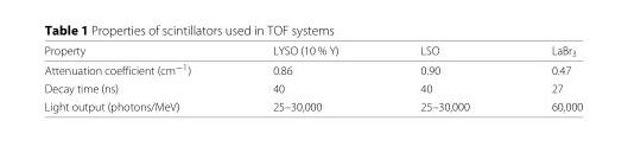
<table><thead><tr><td>Property</td><td>LYSO (10 % Y)</td><td>LSO</td><td>LaBr<sub>3</sub></td></tr></thead><tbody><tr><td>Attenuation coefficient (cm<sup>−1</sup>)</td><td>0.86</td><td>0.90</td><td>0.47</td></tr><tr><td>Decay time (ns)</td><td>40</td><td>40</td><td>27</td></tr><tr><td>Light output (photons/MeV)</td><td>25–30,000</td><td>25–30,000</td><td>60,000</td></tr></tbody></table>